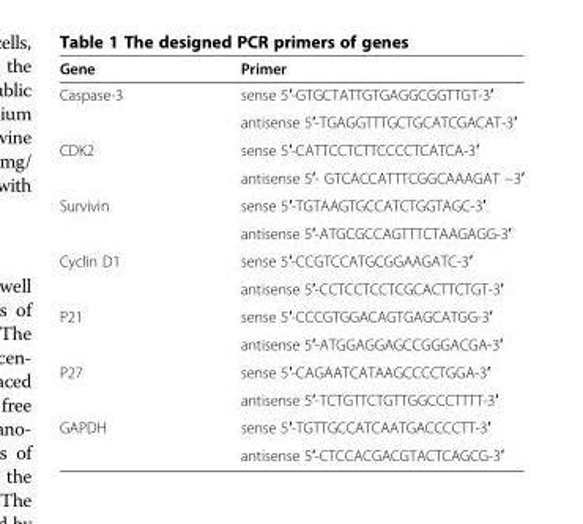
<table><thead><tr><td>Gene</td><td>Primer</td></tr></thead><tbody><tr><td rowspan="2">Caspase-3</td><td>sense 5′-GTGCTATTGTGAGGCGGTTGT-3′</td></tr><tr><td>antisense 5′-TGAGGTTTGCTGCATCGACAT-3′</td></tr><tr><td rowspan="2">CDK2</td><td>sense 5′-CATTCCTCTTCCCCTCATCA-3′</td></tr><tr><td>antisense 5′- GTCACCATTTCGGCAAAGAT −3′</td></tr><tr><td rowspan="2">Survivin</td><td>sense 5′-TGTAAGTGCCATCTGGTAGC-3′</td></tr><tr><td>antisense 5′-ATGCGCCAGTTTCTAAGAGG-3′</td></tr><tr><td rowspan="2">Cyclin D1</td><td>sense 5′-CCGTCCATGCGGAAGATC-3′</td></tr><tr><td>antisense 5′-CCTCCTCCTCGCACTTCTGT-3′</td></tr><tr><td rowspan="2">P21</td><td>sense 5′-CCCGTGGACAGTGAGCATGG-3′</td></tr><tr><td>antisense 5′-ATGGAGGAGCCGGGACGA-3′</td></tr><tr><td rowspan="2">P27</td><td>sense 5′-CAGAATCATAAGCCCCTGGA-3′</td></tr><tr><td>antisense 5′-TCTGTTCTGTTGGCCCTTTT-3′</td></tr><tr><td rowspan="2">GAPDH</td><td>sense 5′-TGTTGCCATCAATGACCCCTT-3′</td></tr><tr><td>antisense 5′-CTCCACGACGTACTCAGCG-3′</td></tr></tbody></table>